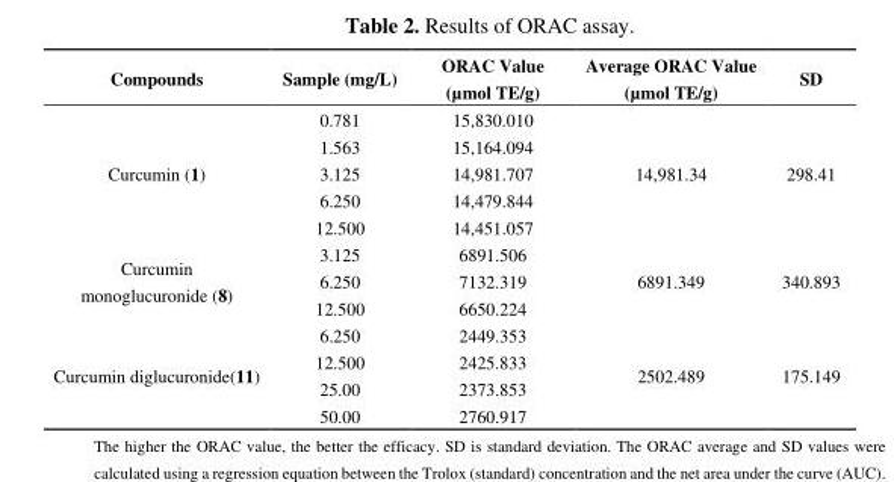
<table><thead><tr><td>Compounds</td><td>Sample (mg/L)</td><td>ORAC Value (µmol TE/g)</td><td>Average ORAC Value (µmol TE/g)</td><td>SD</td></tr></thead><tbody><tr><td rowspan="5">Curcumin (1)</td><td>0.781</td><td>15,830.010</td><td rowspan="5">14,981.34</td><td rowspan="5">298.41</td></tr><tr><td>1.563</td><td>15,164.094</td></tr><tr><td>3.125</td><td>14,981.707</td></tr><tr><td>6.250</td><td>14,479.844</td></tr><tr><td>12.500</td><td>14,451.057</td></tr><tr><td rowspan="3">Curcumin monoglucuronide (8)</td><td>3.125</td><td>6891.506</td><td rowspan="3">6891.349</td><td rowspan="3">340.893</td></tr><tr><td>6.250</td><td>7132.319</td></tr><tr><td>12.500</td><td>6650.224</td></tr><tr><td rowspan="4">Curcumin diglucuronide(11)</td><td>6.250</td><td>2449.353</td><td rowspan="4">2502.489</td><td rowspan="4">175.149</td></tr><tr><td>12.500</td><td>2425.833</td></tr><tr><td>25.00</td><td>2373.853</td></tr><tr><td>50.00</td><td>2760.917</td></tr></tbody></table>